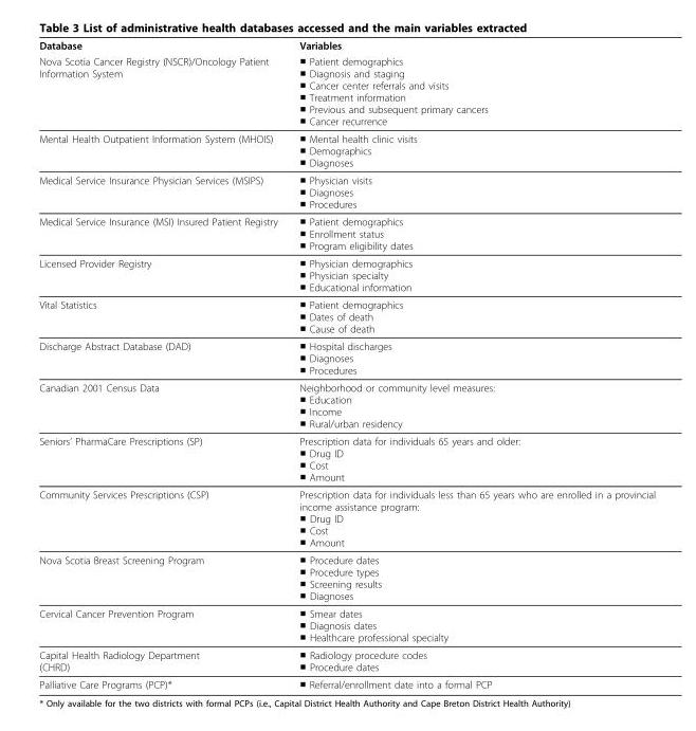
<table><thead><tr><td rowspan="2">Database Nova Scotia Cancer Registry (NSCR)/Oncology Patient Information System</td><td rowspan="2">Variables ■ Patient demographics ■ Diagnosis and staging ■ Cancer center referrals and visits ■ Treatment information ■ Previous and subsequent primary cancers ■ Cancer recurrence</td></tr><tr></tr></thead><tbody><tr><td>Mental Health Outpatient Information System (MHOIS)</td><td>■ Mental health clinic visits ■ Demographics ■ Diagnoses</td></tr><tr><td>Medical Service Insurance Physician Services (MSIPS)</td><td>■ Physician visits ■ Diagnoses ■ Procedures</td></tr><tr><td>Medical Service Insurance (MSI) Insured Patient Registry</td><td>■ Patient demographics ■ Enrollment status ■ Program eligibility dates</td></tr><tr><td>Licensed Provider Registry</td><td>■ Physician demographics ■ Physician specialty ■ Educational information</td></tr><tr><td>Vital Statistics</td><td>■ Patient demographics ■ Dates of death ■ Cause of death</td></tr><tr><td>Discharge Abstract Database (DAD)</td><td>■ Hospital discharges ■ Diagnoses ■ Procedures</td></tr><tr><td>Canadian 2001 Census Data</td><td>Neighborhood or community level measures: ■ Education ■ Income ■ Rural/urban residency</td></tr><tr><td>Seniors’ PharmaCare Prescriptions (SP)</td><td>Prescription data for individuals 65 years and older: ■ Drug ID ■ Cost ■ Amount</td></tr><tr><td>Community Services Prescriptions (CSP)</td><td>Prescription data for individuals less than 65 years who are enrolled in a provincial income assistance program: ■ Drug ID ■ Cost ■ Amount</td></tr><tr><td>Nova Scotia Breast Screening Program</td><td>■ Procedure dates ■ Procedure types ■ Screening results ■ Diagnoses</td></tr><tr><td>Cervical Cancer Prevention Program</td><td>■ Smear dates ■ Diagnosis dates ■ Healthcare professional specialty</td></tr><tr><td>Capital Health Radiology Department (CHRD)</td><td>■ Radiology procedure codes ■ Procedure dates</td></tr><tr><td>Palliative Care Programs (PCP)*</td><td>■ Referral/enrollment date into a formal PCP</td></tr></tbody></table>